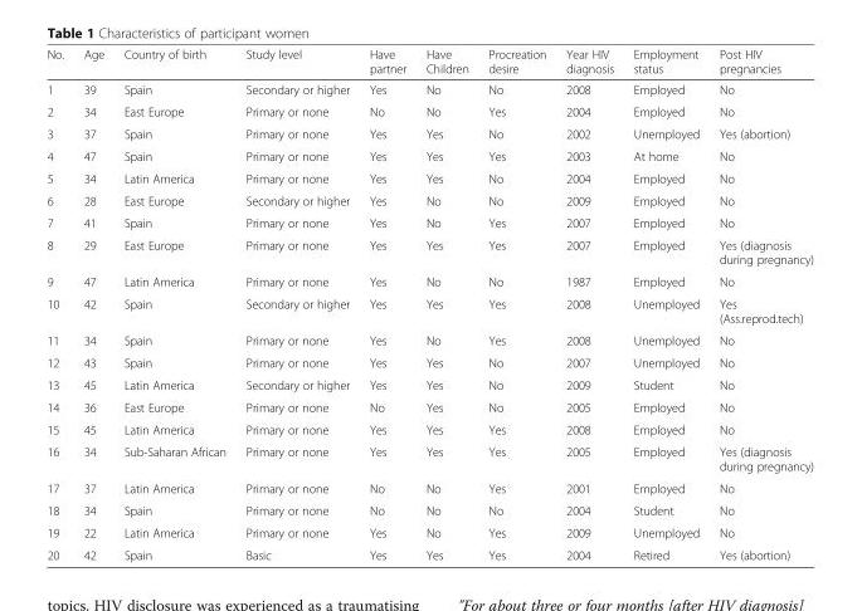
<table><thead><tr><td>No.</td><td>Age</td><td>Country of birth</td><td>Study level</td><td>Have partner</td><td>Have Children</td><td>Procreation desire</td><td>Year HIV diagnosis</td><td>Employment status</td><td>Post HIV pregnancies</td></tr></thead><tbody><tr><td>1</td><td>39</td><td>Spain</td><td>Secondary or higher</td><td>Yes</td><td>No</td><td>No</td><td>2008</td><td>Employed</td><td>No</td></tr><tr><td>2</td><td>34</td><td>East Europe</td><td>Primary or none</td><td>No</td><td>No</td><td>Yes</td><td>2004</td><td>Employed</td><td>No</td></tr><tr><td>3</td><td>37</td><td>Spain</td><td>Primary or none</td><td>Yes</td><td>Yes</td><td>No</td><td>2002</td><td>Unemployed</td><td>Yes (abortion)</td></tr><tr><td>4</td><td>47</td><td>Spain</td><td>Primary or none</td><td>Yes</td><td>Yes</td><td>Yes</td><td>2003</td><td>At home</td><td>No</td></tr><tr><td>5</td><td>34</td><td>Latin America</td><td>Primary or none</td><td>Yes</td><td>Yes</td><td>No</td><td>2004</td><td>Employed</td><td>No</td></tr><tr><td>6</td><td>28</td><td>East Europe</td><td>Secondary or higher</td><td>Yes</td><td>No</td><td>No</td><td>2009</td><td>Employed</td><td>No</td></tr><tr><td>7</td><td>41</td><td>Spain</td><td>Primary or none</td><td>Yes</td><td>No</td><td>Yes</td><td>2007</td><td>Employed</td><td>No</td></tr><tr><td>8</td><td>29</td><td>East Europe</td><td>Primary or none</td><td>Yes</td><td>Yes</td><td>Yes</td><td>2007</td><td>Employed</td><td>Yes (diagnosis during pregnancy)</td></tr><tr><td>9</td><td>47</td><td>Latin America</td><td>Primary or none</td><td>Yes</td><td>No</td><td>No</td><td>1987</td><td>Employed</td><td>No</td></tr><tr><td>10</td><td>42</td><td>Spain</td><td>Secondary or higher</td><td>Yes</td><td>Yes</td><td>Yes</td><td>2008</td><td>Unemployed</td><td>Yes (Ass.reprod.tech)</td></tr><tr><td>11</td><td>34</td><td>Spain</td><td>Primary or none</td><td>Yes</td><td>No</td><td>Yes</td><td>2008</td><td>Unemployed</td><td>No</td></tr><tr><td>12</td><td>43</td><td>Spain</td><td>Primary or none</td><td>Yes</td><td>Yes</td><td>No</td><td>2007</td><td>Unemployed</td><td>No</td></tr><tr><td>13</td><td>45</td><td>Latin America</td><td>Secondary or higher</td><td>Yes</td><td>Yes</td><td>No</td><td>2009</td><td>Student</td><td>No</td></tr><tr><td>14</td><td>36</td><td>East Europe</td><td>Primary or none</td><td>No</td><td>Yes</td><td>No</td><td>2005</td><td>Employed</td><td>No</td></tr><tr><td>15</td><td>45</td><td>Latin America</td><td>Primary or none</td><td>Yes</td><td>Yes</td><td>Yes</td><td>2008</td><td>Employed</td><td>No</td></tr><tr><td>16</td><td>34</td><td>Sub-Saharan African</td><td>Primary or none</td><td>Yes</td><td>Yes</td><td>Yes</td><td>2005</td><td>Employed</td><td>Yes (diagnosis during pregnancy)</td></tr><tr><td>17</td><td>37</td><td>Latin America</td><td>Primary or none</td><td>No</td><td>No</td><td>Yes</td><td>2001</td><td>Employed</td><td>No</td></tr><tr><td>18</td><td>34</td><td>Spain</td><td>Primary or none</td><td>No</td><td>No</td><td>No</td><td>2004</td><td>Student</td><td>No</td></tr><tr><td>19</td><td>22</td><td>Latin America</td><td>Primary or none</td><td>Yes</td><td>No</td><td>Yes</td><td>2009</td><td>Unemployed</td><td>No</td></tr><tr><td>20</td><td>42</td><td>Spain</td><td>Basic</td><td>Yes</td><td>Yes</td><td>Yes</td><td>2004</td><td>Retired</td><td>Yes (abortion)</td></tr></tbody></table>